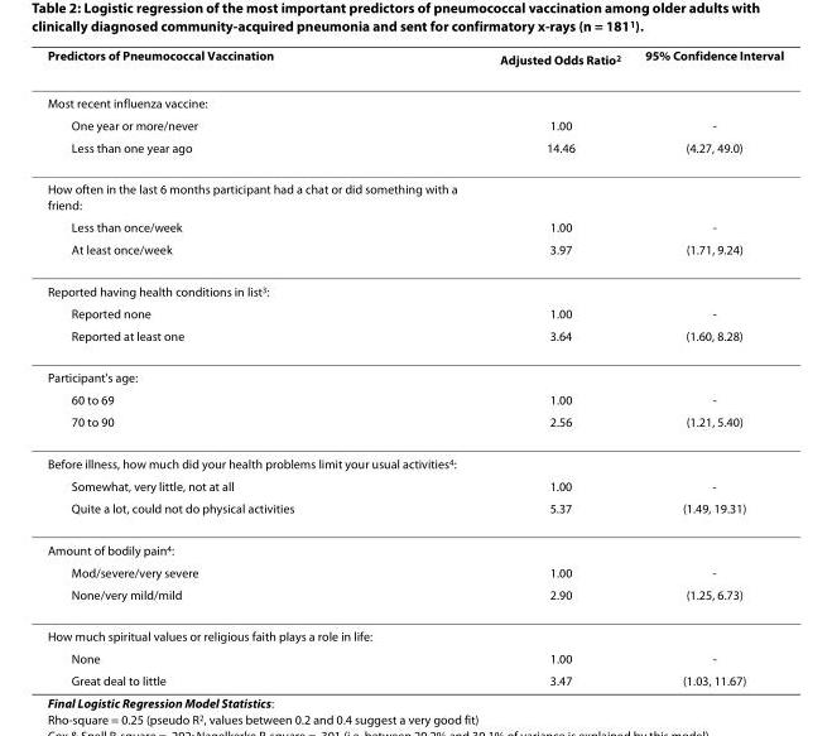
<table><thead><tr><td>Predictors of Pneumococcal Vaccination</td><td>Adjusted Odds Ratio<sup>2</sup></td><td>95% Confidence Interval</td></tr></thead><tbody><tr><td colspan="3">Most recent influenza vaccine:</td></tr><tr><td>One year or more/never</td><td>1.00</td><td>-</td></tr><tr><td>Less than one year ago</td><td>14.46</td><td>(4.27, 49.0)</td></tr><tr><td colspan="3">How often in the last 6 months participant had a chat or did something with a friend:</td></tr><tr><td>Less than once/week</td><td>1.00</td><td>-</td></tr><tr><td>At least once/week</td><td>3.97</td><td>(1.71, 9.24)</td></tr><tr><td colspan="3">Reported having health conditions in list<sup>3</sup>:</td></tr><tr><td>Reported none</td><td>1.00</td><td>-</td></tr><tr><td>Reported at least one</td><td>3.64</td><td>(1.60, 8.28)</td></tr><tr><td colspan="3">Participant&#x27;s age:</td></tr><tr><td>60 to 69</td><td>1.00</td><td>-</td></tr><tr><td>70 to 90</td><td>2.56</td><td>(1.21, 5.40)</td></tr><tr><td colspan="3">Before illness, how much did your health problems limit your usual activities<sup>4</sup>:</td></tr><tr><td>Somewhat, very little, not at all</td><td>1.00</td><td>-</td></tr><tr><td>Quite a lot, could not do physical activities</td><td>5.37</td><td>(1.49, 19.31)</td></tr><tr><td colspan="3">Amount of bodily pain<sup>4</sup>:</td></tr><tr><td>Mod/severe/very severe</td><td>1.00</td><td>-</td></tr><tr><td>None/very mild/mild</td><td>2.90</td><td>(1.25, 6.73)</td></tr><tr><td colspan="3">How much spiritual values or religious faith plays a role in life:</td></tr><tr><td>None</td><td>1.00</td><td>-</td></tr><tr><td>Great deal to little</td><td>3.47</td><td>(1.03, 11.67)</td></tr></tbody></table>